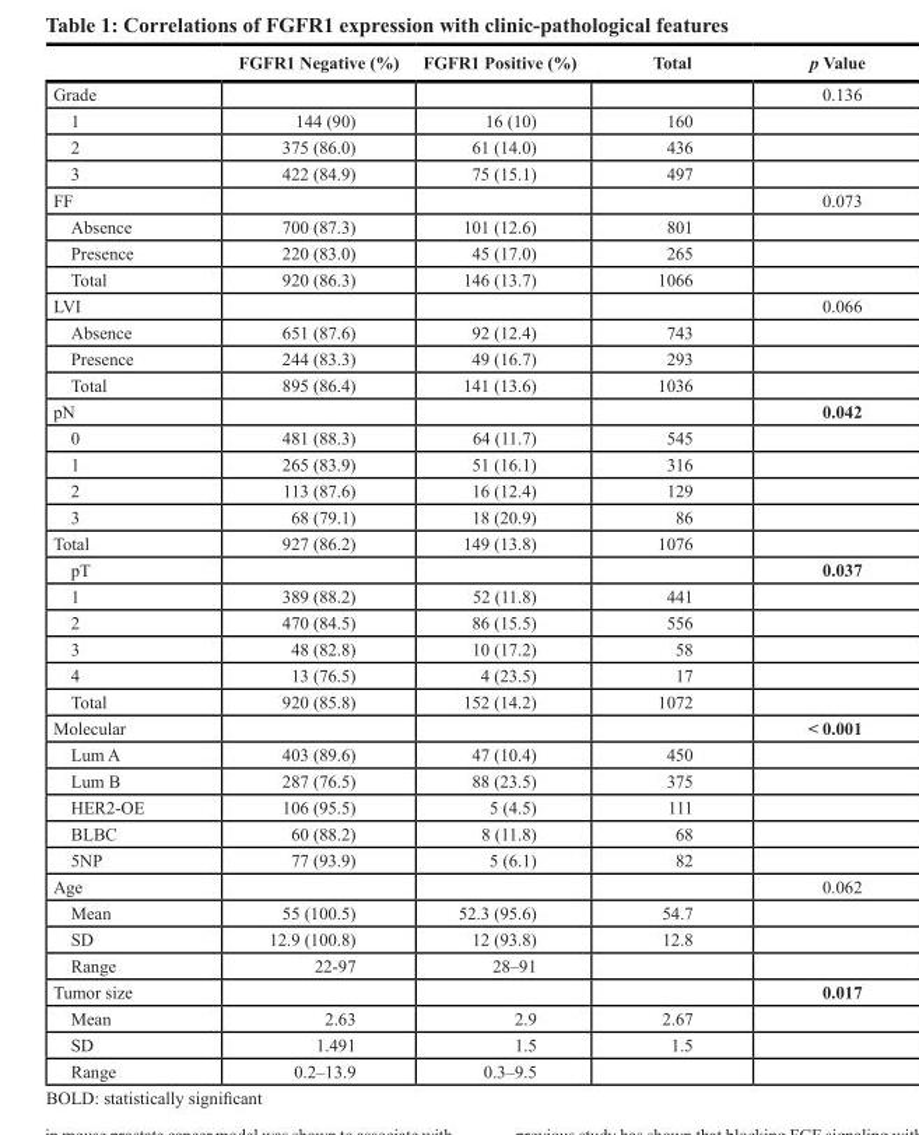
<table><thead><tr><td></td><td>FGFR1 Negative (%)</td><td>FGFR1 Positive (%)</td><td>Total</td><td>p Value</td></tr></thead><tbody><tr><td>Grade</td><td></td><td></td><td></td><td>0.136</td></tr><tr><td>1</td><td>144 (90)</td><td>16 (10)</td><td>160</td><td></td></tr><tr><td>2</td><td>375 (86.0)</td><td>61 (14.0)</td><td>436</td><td></td></tr><tr><td>3</td><td>422 (84.9)</td><td>75 (15.1)</td><td>497</td><td></td></tr><tr><td>FF</td><td></td><td></td><td></td><td>0.073</td></tr><tr><td>Absence</td><td>700 (87.3)</td><td>101 (12.6)</td><td>801</td><td></td></tr><tr><td>Presence</td><td>220 (83.0)</td><td>45 (17.0)</td><td>265</td><td></td></tr><tr><td>Total</td><td>920 (86.3)</td><td>146 (13.7)</td><td>1066</td><td></td></tr><tr><td>LVI</td><td></td><td></td><td></td><td>0.066</td></tr><tr><td>Absence</td><td>651 (87.6)</td><td>92 (12.4)</td><td>743</td><td></td></tr><tr><td>Presence</td><td>244 (83.3)</td><td>49 (16.7)</td><td>293</td><td></td></tr><tr><td>Total</td><td>895 (86.4)</td><td>141 (13.6)</td><td>1036</td><td></td></tr><tr><td>pN</td><td></td><td></td><td></td><td>0.042</td></tr><tr><td>0</td><td>481 (88.3)</td><td>64 (11.7)</td><td>545</td><td></td></tr><tr><td>1</td><td>265 (83.9)</td><td>51 (16.1)</td><td>316</td><td></td></tr><tr><td>2</td><td>113 (87.6)</td><td>16 (12.4)</td><td>129</td><td></td></tr><tr><td>3</td><td>68 (79.1)</td><td>18 (20.9)</td><td>86</td><td></td></tr><tr><td>Total</td><td>927 (86.2)</td><td>149 (13.8)</td><td>1076</td><td></td></tr><tr><td>pT</td><td></td><td></td><td></td><td>0.037</td></tr><tr><td>1</td><td>389 (88.2)</td><td>52 (11.8)</td><td>441</td><td></td></tr><tr><td>2</td><td>470 (84.5)</td><td>86 (15.5)</td><td>556</td><td></td></tr><tr><td>3</td><td>48 (82.8)</td><td>10 (17.2)</td><td>58</td><td></td></tr><tr><td>4</td><td>13 (76.5)</td><td>4 (23.5)</td><td>17</td><td></td></tr><tr><td>Total</td><td>920 (85.8)</td><td>152 (14.2)</td><td>1072</td><td></td></tr><tr><td>Molecular</td><td></td><td></td><td></td><td>&lt; 0.001</td></tr><tr><td>Lum A</td><td>403 (89.6)</td><td>47 (10.4)</td><td>450</td><td></td></tr><tr><td>Lum B</td><td>287 (76.5)</td><td>88 (23.5)</td><td>375</td><td></td></tr><tr><td>HER2-OE</td><td>106 (95.5)</td><td>5 (4.5)</td><td>111</td><td></td></tr><tr><td>BLBC</td><td>60 (88.2)</td><td>8 (11.8)</td><td>68</td><td></td></tr><tr><td>5NP</td><td>77 (93.9)</td><td>5 (6.1)</td><td>82</td><td></td></tr><tr><td>Age</td><td></td><td></td><td></td><td>0.062</td></tr><tr><td>Mean</td><td>55 (100.5)</td><td>52.3 (95.6)</td><td>54.7</td><td></td></tr><tr><td>SD</td><td>12.9 (100.8)</td><td>12 (93.8)</td><td>12.8</td><td></td></tr><tr><td>Range</td><td>22-97</td><td>28–91</td><td></td><td></td></tr><tr><td>Tumor size</td><td></td><td></td><td></td><td>0.017</td></tr><tr><td>Mean</td><td>2.63</td><td>2.9</td><td>2.67</td><td></td></tr><tr><td>SD</td><td>1.491</td><td>1.5</td><td>1.5</td><td></td></tr><tr><td>Range</td><td>0.2–13.9</td><td>0.3–9.5</td><td></td><td></td></tr></tbody></table>